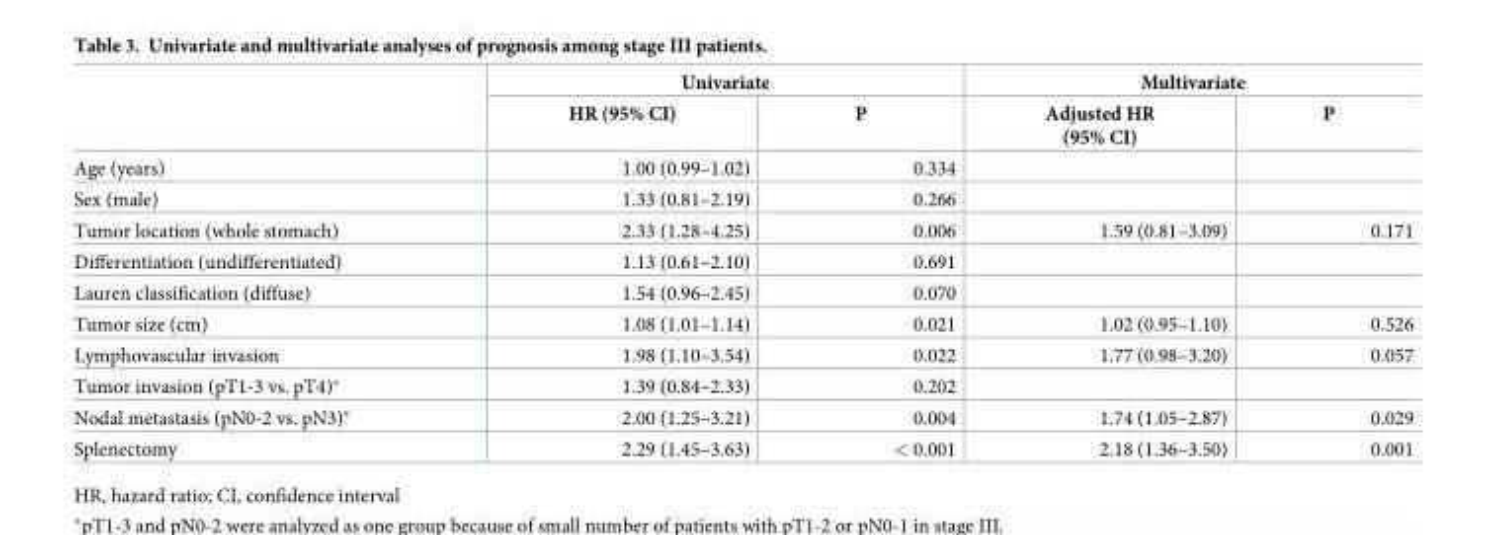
<table><thead><tr><td rowspan="2"></td><td colspan="2">Univariate</td><td colspan="2">Multivariate</td></tr><tr><td>HR (95% CI)</td><td>P</td><td>Adjusted HR (95% CI)</td><td>P</td></tr></thead><tbody><tr><td>Age (years)</td><td>1.00 (0.99–1.02)</td><td>0.334</td><td></td><td></td></tr><tr><td>Sex (male)</td><td>1.33 (0.81–2.19)</td><td>0.266</td><td></td><td></td></tr><tr><td>Tumor location (whole stomach)</td><td>2.33 (1.28–4.25)</td><td>0.006</td><td>1.59 (0.81–3.09)</td><td>0.171</td></tr><tr><td>Differentiation (undifferentiated)</td><td>1.13 (0.61–2.10)</td><td>0.691</td><td></td><td></td></tr><tr><td>Lauren classification (diffuse)</td><td>1.54 (0.96–2.45)</td><td>0.070</td><td></td><td></td></tr><tr><td>Tumor size (cm)</td><td>1.08 (1.01–1.14)</td><td>0.021</td><td>1.02 (0.95–1.10)</td><td>0.526</td></tr><tr><td>Lymphovascular invasion</td><td>1.98 (1.10–3.54)</td><td>0.022</td><td>1.77 (0.98–3.20)</td><td>0.057</td></tr><tr><td>Tumor invasion (pT1-3 vs. pT4)*</td><td>1.39 (0.84–2.33)</td><td>0.202</td><td></td><td></td></tr><tr><td>Nodal metastasis (pN0-2 vs. pN3)*</td><td>2.00 (1.25–3.21)</td><td>0.004</td><td>1.74 (1.05–2.87)</td><td>0.029</td></tr><tr><td>Splenectomy</td><td>2.29 (1.45–3.63)</td><td>&lt; 0.001</td><td>2.18 (1.36–3.50)</td><td>0.001</td></tr></tbody></table>